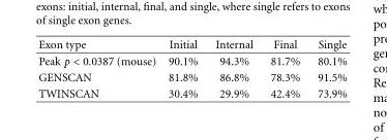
<table><thead><tr><td>Exon type</td><td>Initial</td><td>Internal</td><td>Final</td><td>Single</td></tr></thead><tbody><tr><td>Peak p &lt; 0.0387 (mouse)</td><td>90.1%</td><td>94.3%</td><td>81.7%</td><td>80.1%</td></tr><tr><td>GENSCAN</td><td>81.8%</td><td>86.8%</td><td>78.3%</td><td>91.5%</td></tr><tr><td>TWINSCAN</td><td>30.4%</td><td>29.9%</td><td>42.4%</td><td>73.9%</td></tr></tbody></table>